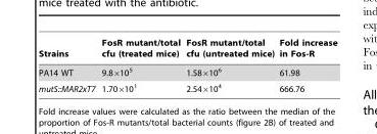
<table><thead><tr><td>Strains</td><td>FosR mutant/total cfu (treated mice)</td><td>FosR mutant/total cfu (untreated mice)</td><td>Fold increase in Fos-R</td></tr></thead><tbody><tr><td>PA14 WT</td><td>9.8×10<sup>5</sup></td><td>1.58×10<sup>6</sup></td><td>61.98</td></tr><tr><td>mutS::MAR2xT7</td><td>1.70×10<sup>1</sup></td><td>2.54×10<sup>4</sup></td><td>666.76</td></tr></tbody></table>